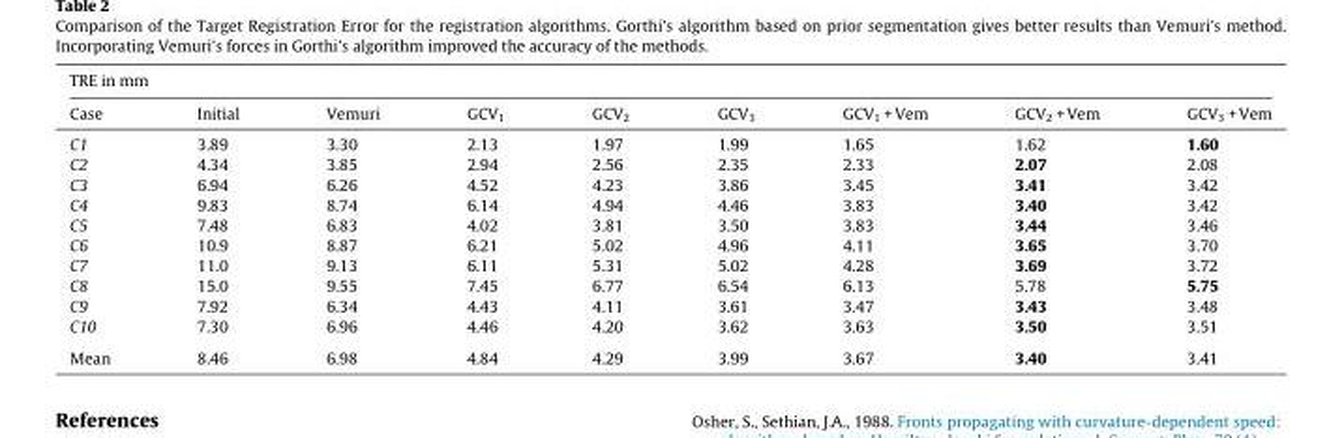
<table><thead><tr><td colspan="9">TRE in mm</td></tr><tr><td>Case</td><td>Initial</td><td>Vemuri</td><td>GCV1</td><td>GCV2</td><td>GCV3</td><td>GCV1 + Vem</td><td>GCV2 + Vem</td><td>GCV3 + Vem</td></tr></thead><tbody><tr><td>C1</td><td>3.89</td><td>3.30</td><td>2.13</td><td>1.97</td><td>1.99</td><td>1.65</td><td>1.62</td><td>1.60</td></tr><tr><td>C2</td><td>4.34</td><td>3.85</td><td>2.94</td><td>2.56</td><td>2.35</td><td>2.33</td><td>2.07</td><td>2.08</td></tr><tr><td>C3</td><td>6.94</td><td>6.26</td><td>4.52</td><td>4.23</td><td>3.86</td><td>3.45</td><td>3.41</td><td>3.42</td></tr><tr><td>C4</td><td>9.83</td><td>8.74</td><td>6.14</td><td>4.94</td><td>4.46</td><td>3.83</td><td>3.40</td><td>3.42</td></tr><tr><td>C5</td><td>7.48</td><td>6.83</td><td>4.02</td><td>3.81</td><td>3.50</td><td>3.83</td><td>3.44</td><td>3.46</td></tr><tr><td>C6</td><td>10.9</td><td>8.87</td><td>6.21</td><td>5.02</td><td>4.96</td><td>4.11</td><td>3.65</td><td>3.70</td></tr><tr><td>C7</td><td>11.0</td><td>9.13</td><td>6.11</td><td>5.31</td><td>5.02</td><td>4.28</td><td>3.69</td><td>3.72</td></tr><tr><td>C8</td><td>15.0</td><td>9.55</td><td>7.45</td><td>6.77</td><td>6.54</td><td>6.13</td><td>5.78</td><td>5.75</td></tr><tr><td>C9</td><td>7.92</td><td>6.34</td><td>4.43</td><td>4.11</td><td>3.61</td><td>3.47</td><td>3.43</td><td>3.48</td></tr><tr><td>C10</td><td>7.30</td><td>6.96</td><td>4.46</td><td>4.20</td><td>3.62</td><td>3.63</td><td>3.50</td><td>3.51</td></tr><tr><td>Mean</td><td>8.46</td><td>6.98</td><td>4.84</td><td>4.29</td><td>3.99</td><td>3.67</td><td>3.40</td><td>3.41</td></tr></tbody></table>